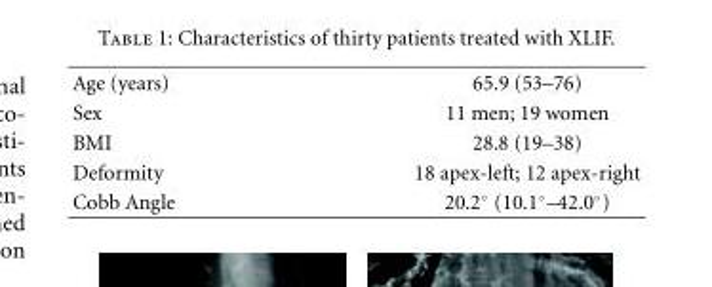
<table><tbody><tr><td>Age (years)</td><td>65.9 (53–76)</td></tr><tr><td>Sex</td><td>11 men; 19 women</td></tr><tr><td>BMI</td><td>28.8 (19–38)</td></tr><tr><td>Deformity</td><td>18 apex-left; 12 apex-right</td></tr><tr><td>Cobb Angle</td><td>20.2◦ (10.1◦–42.0◦)</td></tr></tbody></table>